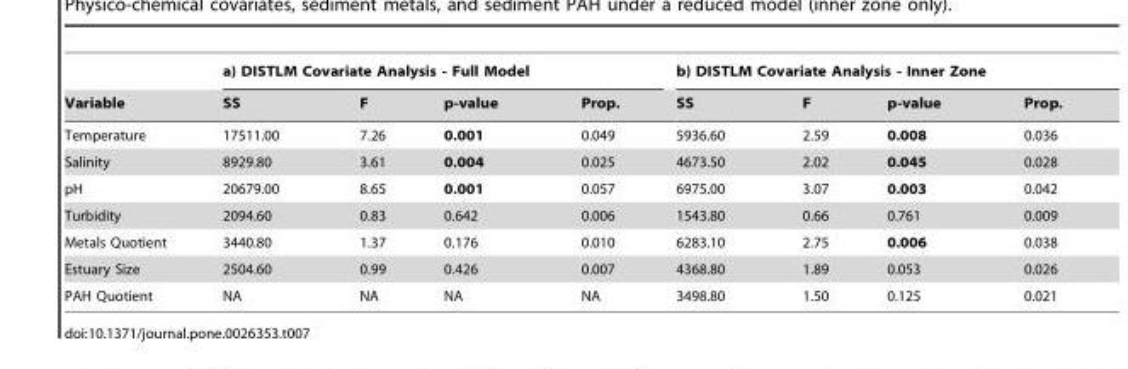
<table><thead><tr><td rowspan="2">Variable</td><td colspan="4">a) DISTLM Covariate Analysis - Full Model</td><td colspan="4">b) DISTLM Covariate Analysis - Inner Zone</td></tr><tr><td>SS</td><td>F</td><td>p-value</td><td>Prop.</td><td>SS</td><td>F</td><td>p-value</td><td>Prop.</td></tr></thead><tbody><tr><td>Temperature</td><td>17511.00</td><td>7.26</td><td>0.001</td><td>0.049</td><td>5936.60</td><td>2.59</td><td>0.008</td><td>0.036</td></tr><tr><td>Salinity</td><td>8929.80</td><td>3.61</td><td>0.004</td><td>0.025</td><td>4673.50</td><td>2.02</td><td>0.045</td><td>0.028</td></tr><tr><td>pH</td><td>20679.00</td><td>8.65</td><td>0.001</td><td>0.057</td><td>6975.00</td><td>3.07</td><td>0.003</td><td>0.042</td></tr><tr><td>Turbidity</td><td>2094.60</td><td>0.83</td><td>0.642</td><td>0.006</td><td>1543.80</td><td>0.66</td><td>0.761</td><td>0.009</td></tr><tr><td>Metals Quotient</td><td>3440.80</td><td>1.37</td><td>0.176</td><td>0.010</td><td>6283.10</td><td>2.75</td><td>0.006</td><td>0.038</td></tr><tr><td>Estuary Size</td><td>2504.60</td><td>0.99</td><td>0.426</td><td>0.007</td><td>4368.80</td><td>1.89</td><td>0.053</td><td>0.026</td></tr><tr><td>PAH Quotient</td><td>NA</td><td>NA</td><td>NA</td><td>NA</td><td>3498.80</td><td>1.50</td><td>0.125</td><td>0.021</td></tr></tbody></table>